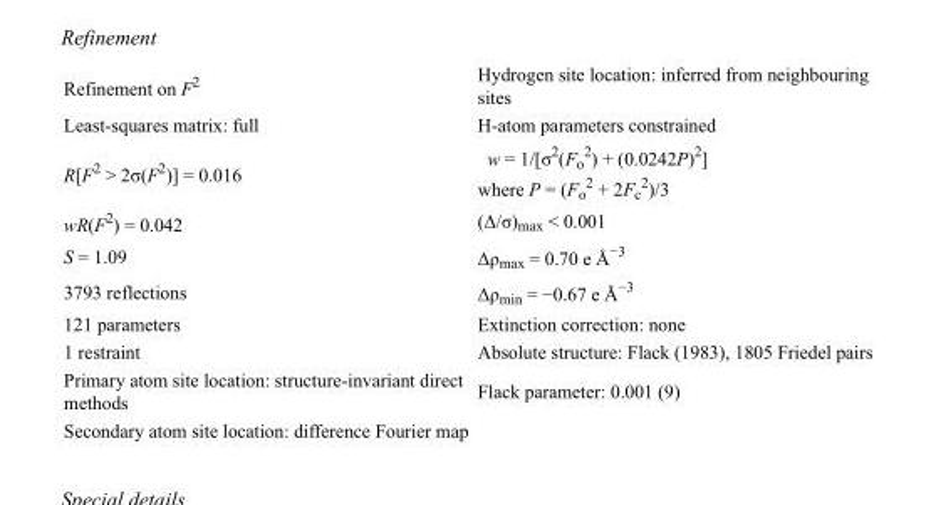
<table><tbody><tr><td>Refinement on F<sup>2</sup></td><td>Hydrogen site location: inferred from neighbouring sites</td></tr><tr><td>Least-squares matrix: full</td><td>H-atom parameters constrained</td></tr><tr><td>R[F<sup>2</sup> &gt; 2σ(F<sup>2</sup>)] = 0.016</td><td>w = 1/[σ<sup>2</sup>(F<sub>o</sub> <sup>2</sup>) + (0.0242P)<sup>2</sup>] where P = (F<sub>o</sub> <sup>2</sup> + 2F<sub>c</sub> <sup>2</sup>)/3</td></tr><tr><td>wR(F<sup>2</sup>) = 0.042</td><td>(Δ/σ)<sub>max</sub> &lt; 0.001</td></tr><tr><td>S = 1.09</td><td>Δρ<sub>max</sub> = 0.70 e Å<sup>−3</sup></td></tr><tr><td>3793 reflections</td><td>Δρ<sub>min</sub> = −0.67 e Å<sup>−3</sup></td></tr><tr><td>121 parameters</td><td>Extinction correction: none</td></tr><tr><td>1 restraint</td><td>Absolute structure: Flack (1983), 1805 Friedel pairs</td></tr><tr><td>Primary atom site location: structure-invariant direct methods</td><td>Flack parameter: 0.001 (9)</td></tr><tr><td>Secondary atom site location: difference Fourier map</td><td></td></tr></tbody></table>